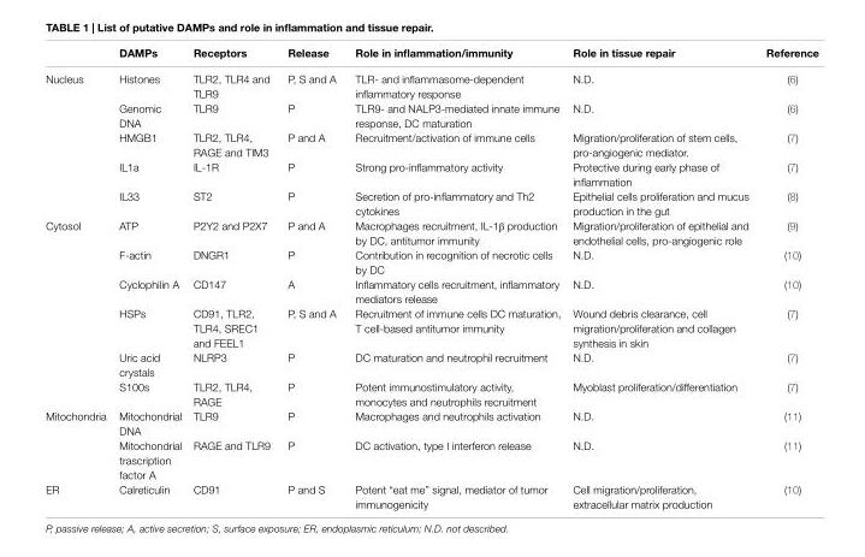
<table><thead><tr><td></td><td>DAMPs</td><td>Receptors</td><td>Release</td><td>Role in inflammation/immunity</td><td>Role in tissue repair</td><td>Reference</td></tr></thead><tbody><tr><td rowspan="5">Nucleus</td><td>Histones</td><td>TLR2, TLR4 and TLR9</td><td>P, S and A</td><td>TLR- and inflammasome-dependent inflammatory response</td><td>N.D.</td><td>(6)</td></tr><tr><td>Genomic DNA</td><td>TLR9</td><td>P</td><td>TLR9- and NALP3-mediated innate immune response, DC maturation</td><td>N.D.</td><td>(6)</td></tr><tr><td>HMGB1</td><td>TLR2, TLR4, RAGE and TIM3</td><td>P and A</td><td>Recruitment/activation of immune cells</td><td>Migration/proliferation of stem cells, pro-angiogenic mediator.</td><td>(7)</td></tr><tr><td>IL1a</td><td>IL-1R</td><td>P</td><td>Strong pro-inflammatory activity</td><td>Protective during early phase of inflammation</td><td>(7)</td></tr><tr><td>IL33</td><td>ST2</td><td>P</td><td>Secretion of pro-inflammatory and Th2 cytokines</td><td>Epithelial cells proliferation and mucus production in the gut</td><td>(8)</td></tr><tr><td rowspan="6">Cytosol</td><td>ATP</td><td>P2Y2 and P2X7</td><td>P and A</td><td>Macrophages recruitment, IL-1β production by DC, antitumor immunity</td><td>Migration/proliferation of epithelial and endothelial cells, pro-angiogenic role</td><td>(9)</td></tr><tr><td>F-actin</td><td>DNGR1</td><td>P</td><td>Contribution in recognition of necrotic cells by DC</td><td>N.D.</td><td>(10)</td></tr><tr><td>Cyclophilin A</td><td>CD147</td><td>A</td><td>Inflammatory cells recruitment, inflammatory mediators release</td><td>N.D.</td><td>(10)</td></tr><tr><td>HSPs</td><td>CD91, TLR2, TLR4, SREC1 and FEEL1</td><td>P, S and A</td><td>Recruitment of immune cells DC maturation, T cell-based antitumor immunity</td><td>Wound debris clearance, cell migration/proliferation and collagen synthesis in skin</td><td>(7)</td></tr><tr><td>Uric acid crystals</td><td>NLRP3</td><td>P</td><td>DC maturation and neutrophil recruitment</td><td>N.D.</td><td>(7)</td></tr><tr><td>S100s</td><td>TLR2, TLR4, RAGE</td><td>P</td><td>Potent immunostimulatory activity, monocytes and neutrophils recruitment</td><td>Myoblast proliferation/differentiation</td><td>(7)</td></tr><tr><td rowspan="2">Mitochondria</td><td>Mitochondrial DNA</td><td>TLR9</td><td>P</td><td>Macrophages and neutrophils activation</td><td>N.D.</td><td>(11)</td></tr><tr><td>Mitochondrial trascription factor A</td><td>RAGE and TLR9</td><td>P</td><td>DC activation, type I interferon release</td><td>N.D.</td><td>(11)</td></tr><tr><td>ER</td><td>Calreticulin</td><td>CD91</td><td>P and S</td><td>Potent “eat me” signal, mediator of tumor immunogenicity</td><td>Cell migration/proliferation, extracellular matrix production</td><td>(10)</td></tr></tbody></table>